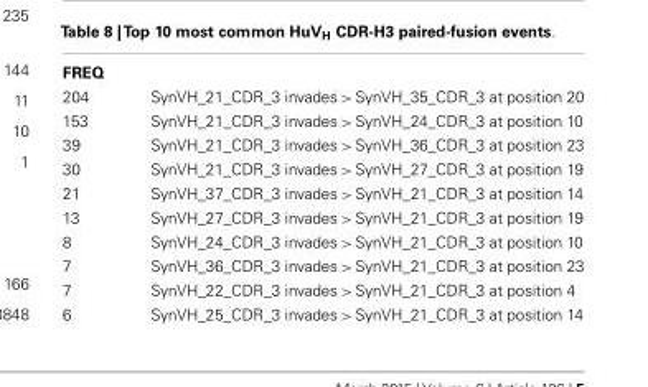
<table><tbody><tr><td colspan="2">FREQ</td></tr><tr><td>204</td><td>SynVH_21_CDR_3 invades &gt; SynVH_35_CDR_3 at position 20</td></tr><tr><td>153</td><td>SynVH_21_CDR_3 invades &gt; SynVH_24_CDR_3 at position 10</td></tr><tr><td>39</td><td>SynVH_21_CDR_3 invades &gt; SynVH_36_CDR_3 at position 23</td></tr><tr><td>30</td><td>SynVH_21_CDR_3 invades &gt; SynVH_27_CDR_3 at position 19</td></tr><tr><td>21</td><td>SynVH_37_CDR_3 invades &gt; SynVH_21_CDR_3 at position 14</td></tr><tr><td>13</td><td>SynVH_27_CDR_3 invades &gt; SynVH_21_CDR_3 at position 19</td></tr><tr><td>8</td><td>SynVH_24_CDR_3 invades &gt; SynVH_21_CDR_3 at position 10</td></tr><tr><td>7</td><td>SynVH_36_CDR_3 invades &gt; SynVH_21_CDR_3 at position 23</td></tr><tr><td>7</td><td>SynVH_22_CDR_3 invades &gt; SynVH_21_CDR_3 at position 4</td></tr><tr><td>6</td><td>SynVH_25_CDR_3 invades &gt; SynVH_21_CDR_3 at position 14</td></tr></tbody></table>